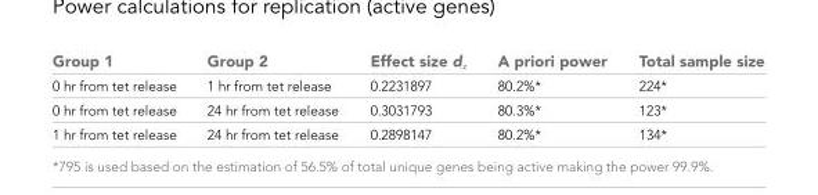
<table><thead><tr><td>Group 1</td><td>Group 2</td><td>Effect size d<sub>z</sub></td><td>A priori power</td><td>Total sample size</td></tr></thead><tbody><tr><td>0 hr from tet release</td><td>1 hr from tet release</td><td>0.2231897</td><td>80.2%*</td><td>224*</td></tr><tr><td>0 hr from tet release</td><td>24 hr from tet release</td><td>0.3031793</td><td>80.3%*</td><td>123*</td></tr><tr><td>1 hr from tet release</td><td>24 hr from tet release</td><td>0.2898147</td><td>80.2%*</td><td>134*</td></tr></tbody></table>